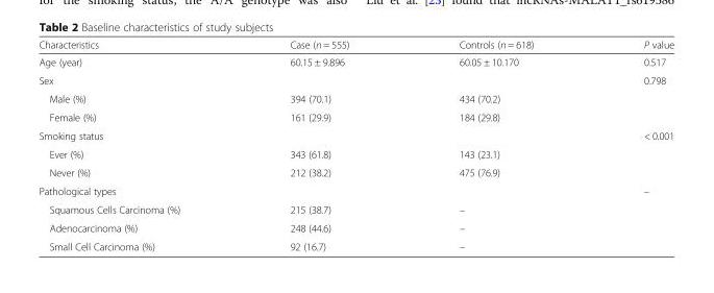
<table><thead><tr><td>Characteristics</td><td>Case (n = 555)</td><td>Controls (n = 618)</td><td>P value</td></tr></thead><tbody><tr><td>Age (year)</td><td>60.15 ± 9.896</td><td>60.05 ± 10.170</td><td>0.517</td></tr><tr><td>Sex</td><td></td><td></td><td>0.798</td></tr><tr><td>Male (%)</td><td>394 (70.1)</td><td>434 (70.2)</td><td></td></tr><tr><td>Female (%)</td><td>161 (29.9)</td><td>184 (29.8)</td><td></td></tr><tr><td>Smoking status</td><td></td><td></td><td>&lt; 0.001</td></tr><tr><td>Ever (%)</td><td>343 (61.8)</td><td>143 (23.1)</td><td></td></tr><tr><td>Never (%)</td><td>212 (38.2)</td><td>475 (76.9)</td><td></td></tr><tr><td>Pathological types</td><td></td><td></td><td>–</td></tr><tr><td>Squamous Cells Carcinoma (%)</td><td>215 (38.7)</td><td>–</td><td></td></tr><tr><td>Adenocarcinoma (%)</td><td>248 (44.6)</td><td>–</td><td></td></tr><tr><td>Small Cell Carcinoma (%)</td><td>92 (16.7)</td><td>–</td><td></td></tr></tbody></table>